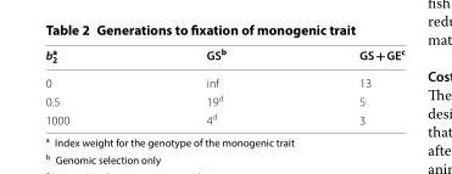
<table><thead><tr><td>b<sub>2</sub> <sup>a</sup></td><td>GS<sup>b</sup></td><td>GS + GE<sup>c</sup></td></tr></thead><tbody><tr><td>0</td><td>inf</td><td>13</td></tr><tr><td>0.5</td><td>19<sup>d</sup></td><td>5</td></tr><tr><td>1000</td><td>4<sup>d</sup></td><td>3</td></tr></tbody></table>